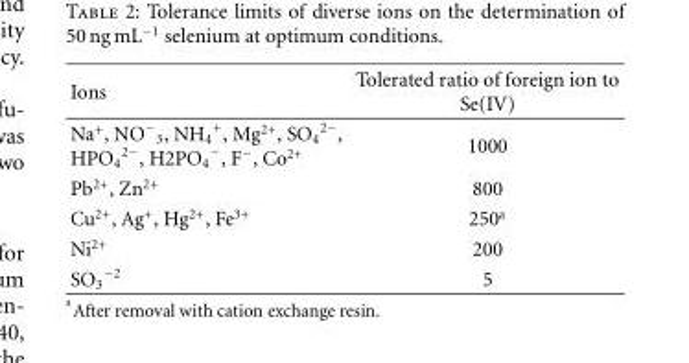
<table><thead><tr><td>Ions</td><td>Tolerated ratio of foreign ion to Se(IV)</td></tr></thead><tbody><tr><td>Na<sup>+</sup>, NO<sup>−</sup> <sub>3</sub>, NH<sub>4</sub> <sup>+</sup>, Mg<sup>2+</sup>, SO<sub>4</sub> <sup>2−</sup>, HPO<sub>4</sub> <sup>2−</sup>, H2PO<sub>4</sub> <sup>−</sup>, F<sup>−</sup>, Co<sup>2+</sup></td><td>1000</td></tr><tr><td>Pb<sup>2+</sup>, Zn<sup>2+</sup></td><td>800</td></tr><tr><td>Cu<sup>2+</sup>, Ag<sup>+</sup>, Hg<sup>2+</sup>, Fe<sup>3+</sup></td><td>250<sup>a</sup></td></tr><tr><td>Ni<sup>2+</sup></td><td>200</td></tr><tr><td>SO<sub>3</sub> <sup>−2</sup></td><td>5</td></tr></tbody></table>